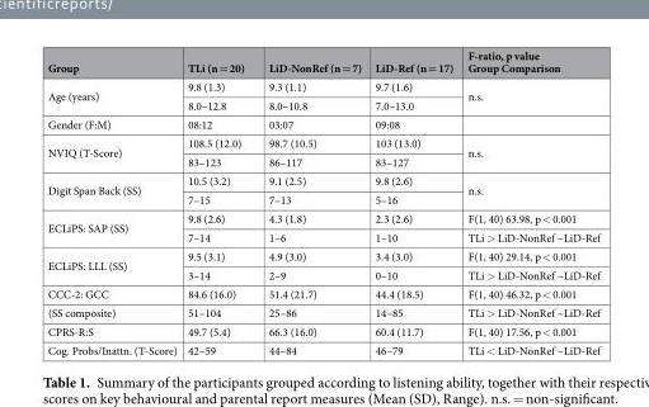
<table><thead><tr><td>Group</td><td>TLi (n = 20)</td><td>LiD-NonRef (n = 7)</td><td>LiD-Ref (n = 17)</td><td>F-ratio, p value Group Comparison</td></tr></thead><tbody><tr><td rowspan="2">Age (years)</td><td>9.8 (1.3)</td><td>9.3 (1.1)</td><td>9.7 (1.6)</td><td rowspan="2">n.s.</td></tr><tr><td>8.0–12.8</td><td>8.0–10.8</td><td>7.0–13.0</td></tr><tr><td>Gender (F:M)</td><td>08:12</td><td>03:07</td><td>09:08</td><td></td></tr><tr><td rowspan="2">NVIQ (T-Score)</td><td>108.5 (12.0)</td><td>98.7 (10.5)</td><td>103 (13.0)</td><td rowspan="2">n.s.</td></tr><tr><td>83–123</td><td>86–117</td><td>83–127</td></tr><tr><td rowspan="2">Digit Span Back (SS)</td><td>10.5 (3.2)</td><td>9.1 (2.5)</td><td>9.8 (2.6)</td><td rowspan="2">n.s.</td></tr><tr><td>7–15</td><td>7–13</td><td>5–16</td></tr><tr><td rowspan="2">ECLiPS: SAP (SS)</td><td>9.8 (2.6)</td><td>4.3 (1.8)</td><td>2.3 (2.6)</td><td>F(1, 40) 63.98, p &lt; 0.001</td></tr><tr><td>7–14</td><td>1–6</td><td>1–10</td><td>TLi &gt; LiD-NonRef ~LiD-Ref</td></tr><tr><td rowspan="2">ECLiPS: LLL (SS)</td><td>9.5 (3.1)</td><td>4.9 (3.0)</td><td>3.4 (3.0)</td><td>F(1, 40) 29.14, p &lt; 0.001</td></tr><tr><td>3–14</td><td>2–9</td><td>0–10</td><td>TLi &gt; LiD-NonRef ~LiD-Ref</td></tr><tr><td>CCC-2: GCC</td><td>84.6 (16.0)</td><td>51.4 (21.7)</td><td>44.4 (18.5)</td><td>F(1, 40) 46.32, p &lt; 0.001</td></tr><tr><td>(SS composite)</td><td>51–104</td><td>25–86</td><td>14–85</td><td>TLi &gt; LiD-NonRef ~LiD-Ref</td></tr><tr><td>CPRS-R:S</td><td>49.7 (5.4)</td><td>66.3 (16.0)</td><td>60.4 (11.7)</td><td>F(1, 40) 17.56, p &lt; 0.001</td></tr><tr><td>Cog. Probs/Inattn. (T-Score)</td><td>42–59</td><td>44–84</td><td>46–79</td><td>TLi &lt; LiD-NonRef ~LiD-Ref</td></tr></tbody></table>